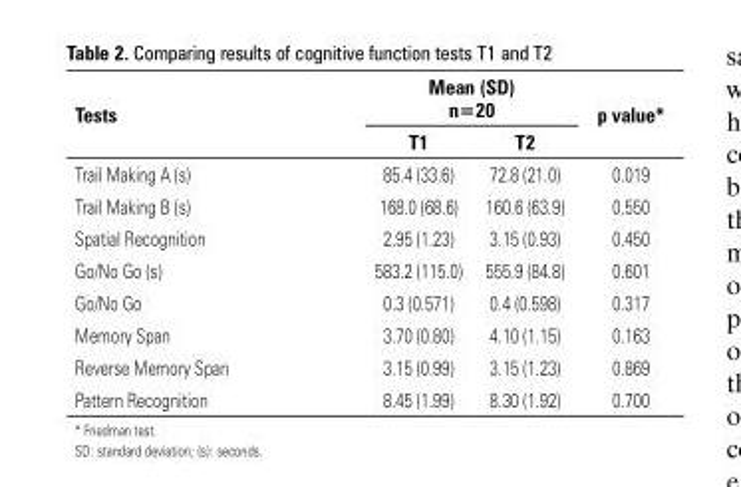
<table><thead><tr><td rowspan="2">Tests</td><td colspan="2">Mean (SD) n=20</td><td rowspan="2">p value*</td></tr><tr><td>T1</td><td>T2</td></tr></thead><tbody><tr><td>Trail Making A (s)</td><td>85.4 (33.6)</td><td>72.8 (21.0)</td><td>0.019</td></tr><tr><td>Trail Making B (s)</td><td>168.0 (68.6)</td><td>160.6 (63.9)</td><td>0.550</td></tr><tr><td>Spatial Recognition</td><td>2.95 (1.23)</td><td>3.15 (0.93)</td><td>0.450</td></tr><tr><td>Go/No Go (s)</td><td>583.2 (115.0)</td><td>555.9 (84.8)</td><td>0.601</td></tr><tr><td>Go/No Go</td><td>0.3 (0.571)</td><td>0.4 (0.598)</td><td>0.317</td></tr><tr><td>Memory Span</td><td>3.70 (0.80)</td><td>4.10 (1.15)</td><td>0.163</td></tr><tr><td>Reverse Memory Span</td><td>3.15 (0.99)</td><td>3.15 (1.23)</td><td>0.869</td></tr><tr><td>Pattern Recognition</td><td>8.45 (1.99)</td><td>8.30 (1.92)</td><td>0.700</td></tr></tbody></table>